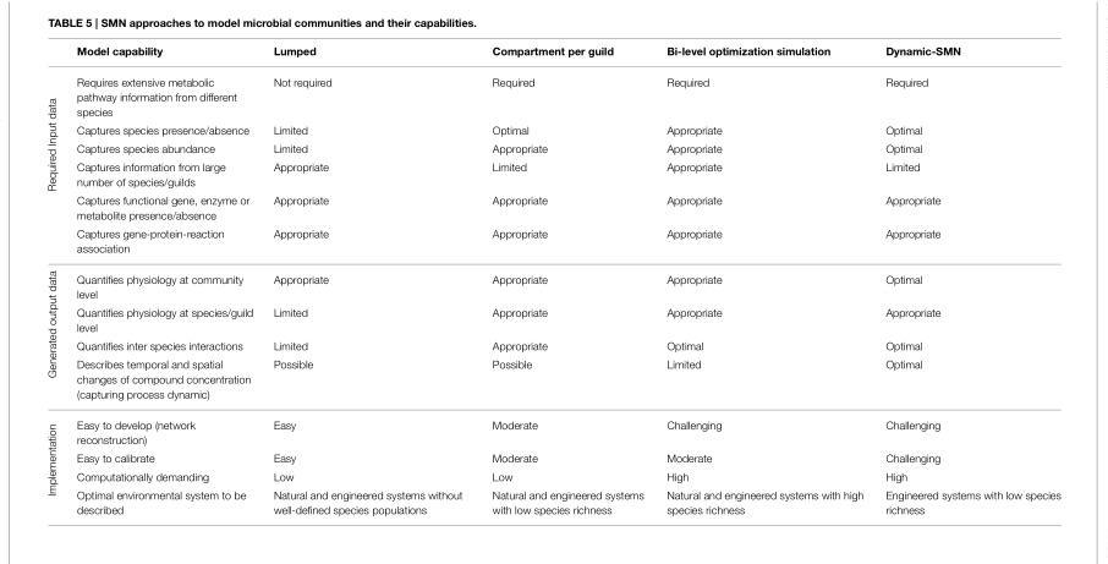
<table><thead><tr><td></td><td>Model capability</td><td>Lumped</td><td>Compartment per guild</td><td>Bi-level optimization simulation</td><td>Dynamic-SMN</td></tr></thead><tbody><tr><td rowspan="6">Required Input data</td><td>Requires extensive metabolic pathway information from different species</td><td>Not required</td><td>Required</td><td>Required</td><td>Required</td></tr><tr><td>Captures species presence/absence</td><td>Limited</td><td>Optimal</td><td>Appropriate</td><td>Optimal</td></tr><tr><td>Captures species abundance</td><td>Limited</td><td>Appropriate</td><td>Appropriate</td><td>Optimal</td></tr><tr><td>Captures information from large number of species/guilds</td><td>Appropriate</td><td>Limited</td><td>Appropriate</td><td>Limited</td></tr><tr><td>Captures functional gene, enzyme or metabolite presence/absence</td><td>Appropriate</td><td>Appropriate</td><td>Appropriate</td><td>Appropriate</td></tr><tr><td>Captures gene-protein-reaction association</td><td>Appropriate</td><td>Appropriate</td><td>Appropriate</td><td>Appropriate</td></tr><tr><td rowspan="4">Generated output data</td><td>Quantifies physiology at community level</td><td>Appropriate</td><td>Appropriate</td><td>Appropriate</td><td>Optimal</td></tr><tr><td>Quantifies physiology at species/guild level</td><td>Limited</td><td>Appropriate</td><td>Appropriate</td><td>Appropriate</td></tr><tr><td>Quantifies inter species interactions</td><td>Limited</td><td>Appropriate</td><td>Optimal</td><td>Optimal</td></tr><tr><td>Describes temporal and spatial changes of compound concentration (capturing process dynamic)</td><td>Possible</td><td>Possible</td><td>Limited</td><td>Optimal</td></tr><tr><td rowspan="4">Implementation</td><td>Easy to develop (network reconstruction)</td><td>Easy</td><td>Moderate</td><td>Challenging</td><td>Challenging</td></tr><tr><td>Easy to calibrate</td><td>Easy</td><td>Moderate</td><td>Moderate</td><td>Challenging</td></tr><tr><td>Computationally demanding</td><td>Low</td><td>Low</td><td>High</td><td>High</td></tr><tr><td>Optimal environmental system to be described</td><td>Natural and engineered systems without well-defined species populations</td><td>Natural and engineered systems with low species richness</td><td>Natural and engineered systems with high species richness</td><td>Engineered systems with low species richness</td></tr></tbody></table>